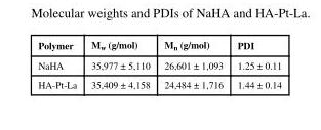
<table><thead><tr><td>Polymer</td><td>M<sub>w</sub> (g/mol)</td><td>M<sub>n</sub> (g/mol)</td><td>PDI</td></tr></thead><tbody><tr><td>NaHA</td><td>35,977 ± 5,110</td><td>26,601 ± 1,093</td><td>1.25 ± 0.11</td></tr><tr><td>HA-Pt-La</td><td>35,409 ± 4,158</td><td>24,484 ± 1,716</td><td>1.44 ± 0.14</td></tr></tbody></table>